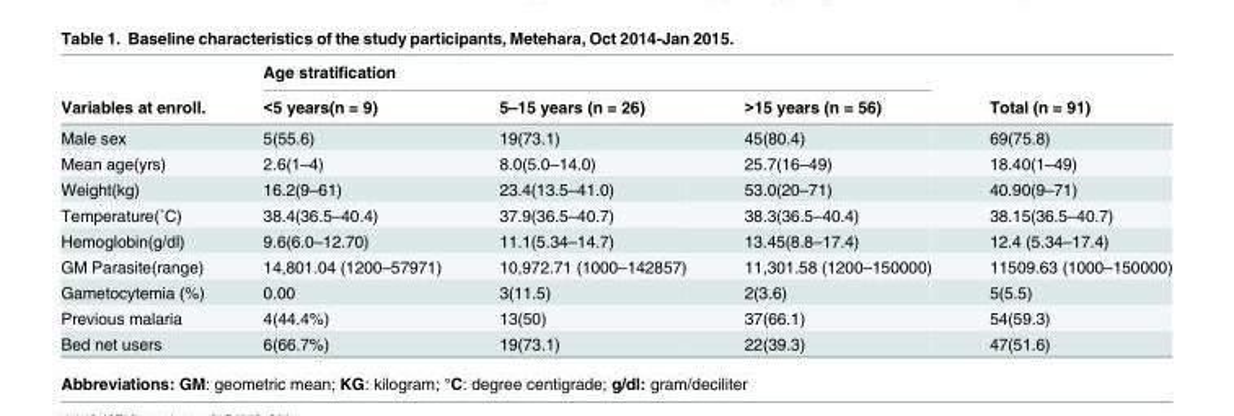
<table><thead><tr><td rowspan="2">Variables at enroll.</td><td colspan="3">Age stratification</td><td rowspan="2">Total (n = 91)</td></tr><tr><td>&lt;5 years(n = 9)</td><td>5–15 years (n = 26)</td><td>&gt;15 years (n = 56)</td></tr></thead><tbody><tr><td>Male sex</td><td>5(55.6)</td><td>19(73.1)</td><td>45(80.4)</td><td>69(75.8)</td></tr><tr><td>Mean age(yrs)</td><td>2.6(1–4)</td><td>8.0(5.0–14.0)</td><td>25.7(16–49)</td><td>18.40(1–49)</td></tr><tr><td>Weight(kg)</td><td>16.2(9–61)</td><td>23.4(13.5–41.0)</td><td>53.0(20–71)</td><td>40.90(9–71)</td></tr><tr><td>Temperature(˚C)</td><td>38.4(36.5–40.4)</td><td>37.9(36.5–40.7)</td><td>38.3(36.5–40.4)</td><td>38.15(36.5–40.7)</td></tr><tr><td>Hemoglobin(g/dl)</td><td>9.6(6.0–12.70)</td><td>11.1(5.34–14.7)</td><td>13.45(8.8–17.4)</td><td>12.4 (5.34–17.4)</td></tr><tr><td>GM Parasite(range)</td><td>14,801.04 (1200–57971)</td><td>10,972.71 (1000–142857)</td><td>11,301.58 (1200–150000)</td><td>11509.63 (1000–150000)</td></tr><tr><td>Gametocytemia (%)</td><td>0.00</td><td>3(11.5)</td><td>2(3.6)</td><td>5(5.5)</td></tr><tr><td>Previous malaria</td><td>4(44.4%)</td><td>13(50)</td><td>37(66.1)</td><td>54(59.3)</td></tr><tr><td>Bed net users</td><td>6(66.7%)</td><td>19(73.1)</td><td>22(39.3)</td><td>47(51.6)</td></tr></tbody></table>